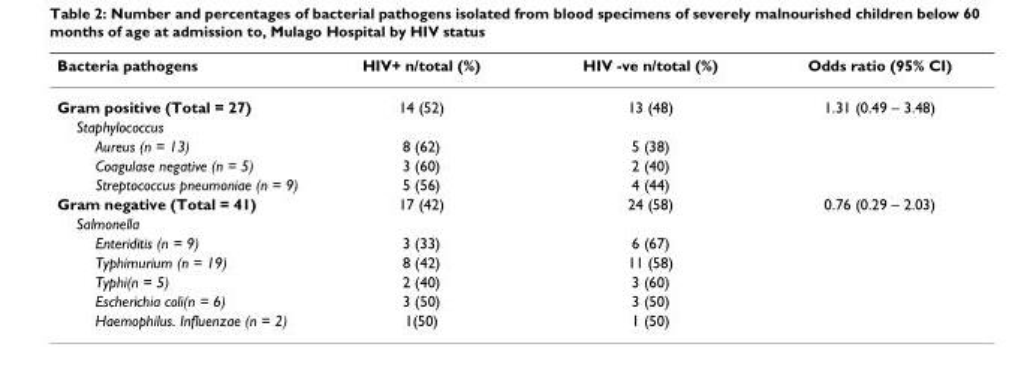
<table><thead><tr><td>Bacteria pathogens</td><td>HIV+ n/total (%)</td><td>HIV -ve n/total (%)</td><td>Odds ratio (95% CI)</td></tr></thead><tbody><tr><td>Gram positive (Total = 27)</td><td>14 (52)</td><td>13 (48)</td><td>1.31 (0.49 – 3.48)</td></tr><tr><td colspan="4">Staphylococcus</td></tr><tr><td>Aureus (n = 13)</td><td>8 (62)</td><td>5 (38)</td><td></td></tr><tr><td>Coagulase negative (n = 5)</td><td>3 (60)</td><td>2 (40)</td><td></td></tr><tr><td>Streptococcus pneumoniae (n = 9)</td><td>5 (56)</td><td>4 (44)</td><td></td></tr><tr><td>Gram negative (Total = 41)</td><td>17 (42)</td><td>24 (58)</td><td>0.76 (0.29 – 2.03)</td></tr><tr><td colspan="4">Salmonella</td></tr><tr><td>Enteriditis (n = 9)</td><td>3 (33)</td><td>6 (67)</td><td></td></tr><tr><td>Typhimurium (n = 19)</td><td>8 (42)</td><td>11 (58)</td><td></td></tr><tr><td>Typhi(n = 5)</td><td>2 (40)</td><td>3 (60)</td><td></td></tr><tr><td>Escherichia coli(n = 6)</td><td>3 (50)</td><td>3 (50)</td><td></td></tr><tr><td>Haemophilus. Influenzae (n = 2)</td><td>1(50)</td><td>1 (50)</td><td></td></tr></tbody></table>